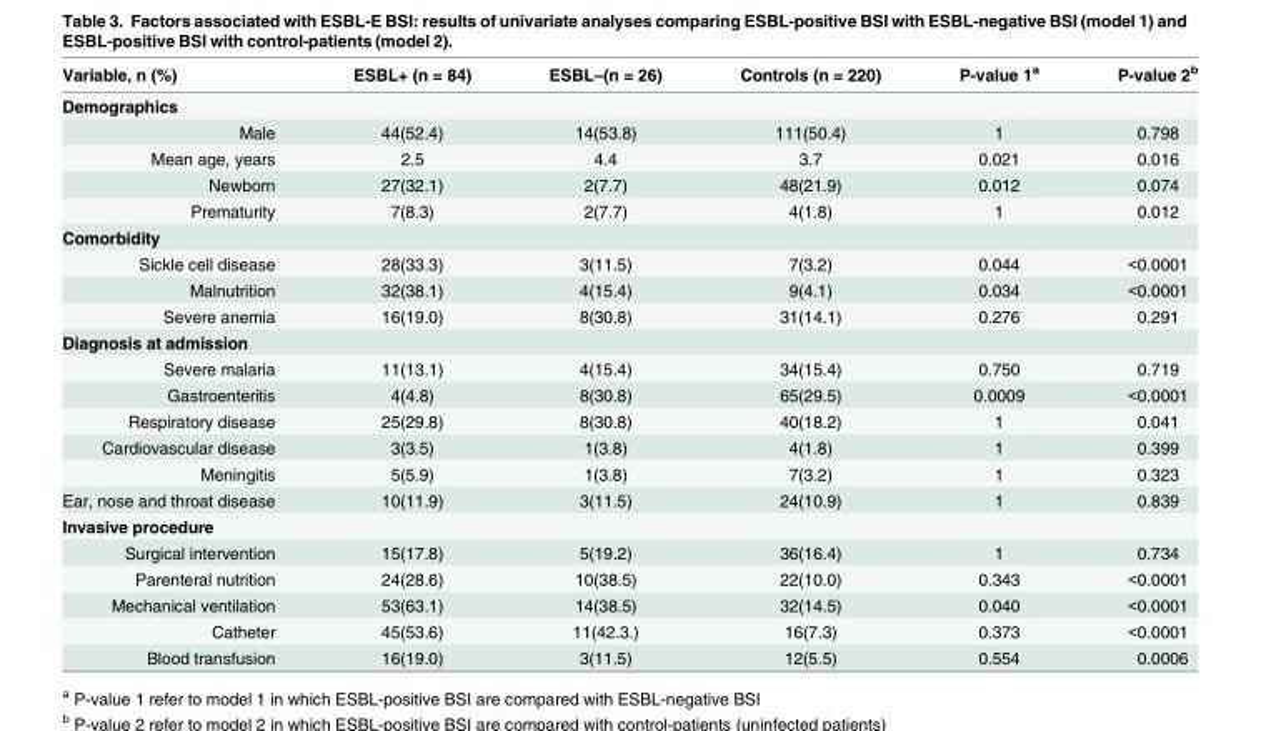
<table><thead><tr><td>Variable, n (%)</td><td>ESBL+ (n = 84)</td><td>ESBL–(n = 26)</td><td>Controls (n = 220)</td><td>P-value 1<sup>a</sup></td><td>P-value 2<sup>b</sup></td></tr></thead><tbody><tr><td colspan="6">Demographics</td></tr><tr><td>Male</td><td>44(52.4)</td><td>14(53.8)</td><td>111(50.4)</td><td>1</td><td>0.798</td></tr><tr><td>Mean age, years</td><td>2.5</td><td>4.4</td><td>3.7</td><td>0.021</td><td>0.016</td></tr><tr><td>Newborn</td><td>27(32.1)</td><td>2(7.7)</td><td>48(21.9)</td><td>0.012</td><td>0.074</td></tr><tr><td>Prematurity</td><td>7(8.3)</td><td>2(7.7)</td><td>4(1.8)</td><td>1</td><td>0.012</td></tr><tr><td colspan="6">Comorbidity</td></tr><tr><td>Sickle cell disease</td><td>28(33.3)</td><td>3(11.5)</td><td>7(3.2)</td><td>0.044</td><td>&lt;0.0001</td></tr><tr><td>Malnutrition</td><td>32(38.1)</td><td>4(15.4)</td><td>9(4.1)</td><td>0.034</td><td>&lt;0.0001</td></tr><tr><td>Severe anemia</td><td>16(19.0)</td><td>8(30.8)</td><td>31(14.1)</td><td>0.276</td><td>0.291</td></tr><tr><td colspan="6">Diagnosis at admission</td></tr><tr><td>Severe malaria</td><td>11(13.1)</td><td>4(15.4)</td><td>34(15.4)</td><td>0.750</td><td>0.719</td></tr><tr><td>Gastroenteritis</td><td>4(4.8)</td><td>8(30.8)</td><td>65(29.5)</td><td>0.0009</td><td>&lt;0.0001</td></tr><tr><td>Respiratory disease</td><td>25(29.8)</td><td>8(30.8)</td><td>40(18.2)</td><td>1</td><td>0.041</td></tr><tr><td>Cardiovascular disease</td><td>3(3.5)</td><td>1(3.8)</td><td>4(1.8)</td><td>1</td><td>0.399</td></tr><tr><td>Meningitis</td><td>5(5.9)</td><td>1(3.8)</td><td>7(3.2)</td><td>1</td><td>0.323</td></tr><tr><td>Ear, nose and throat disease</td><td>10(11.9)</td><td>3(11.5)</td><td>24(10.9)</td><td>1</td><td>0.839</td></tr><tr><td colspan="6">Invasive procedure</td></tr><tr><td>Surgical intervention</td><td>15(17.8)</td><td>5(19.2)</td><td>36(16.4)</td><td>1</td><td>0.734</td></tr><tr><td>Parenteral nutrition</td><td>24(28.6)</td><td>10(38.5)</td><td>22(10.0)</td><td>0.343</td><td>&lt;0.0001</td></tr><tr><td>Mechanical ventilation</td><td>53(63.1)</td><td>14(38.5)</td><td>32(14.5)</td><td>0.040</td><td>&lt;0.0001</td></tr><tr><td>Catheter</td><td>45(53.6)</td><td>11(42.3.)</td><td>16(7.3)</td><td>0.373</td><td>&lt;0.0001</td></tr><tr><td>Blood transfusion</td><td>16(19.0)</td><td>3(11.5)</td><td>12(5.5)</td><td>0.554</td><td>0.0006</td></tr></tbody></table>